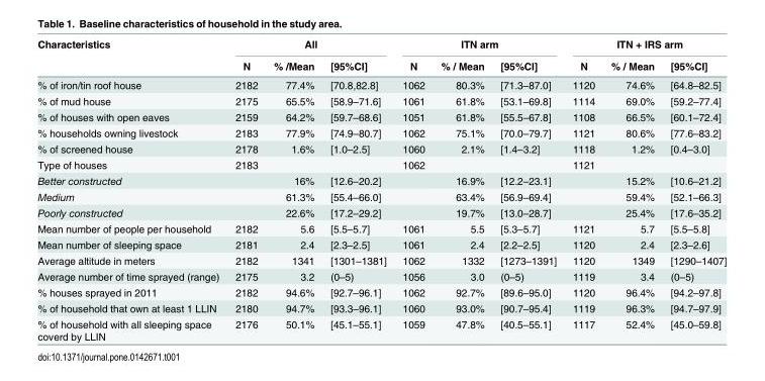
<table><thead><tr><td rowspan="2">Characteristics</td><td colspan="3">All</td><td colspan="3">ITN arm</td><td colspan="3">ITN + IRS arm</td></tr><tr><td>N</td><td>% /Mean</td><td>[95%CI]</td><td>N</td><td>% / Mean</td><td>[95%CI]</td><td>N</td><td>% / Mean</td><td>[95%CI]</td></tr></thead><tbody><tr><td>% of iron/tin roof house</td><td>2182</td><td>77.4%</td><td>[70.8,82.8]</td><td>1062</td><td>80.3%</td><td>[71.3–87.0]</td><td>1120</td><td>74.6%</td><td>[64.8–82.5]</td></tr><tr><td>% of mud house</td><td>2175</td><td>65.5%</td><td>[58.9–71.6]</td><td>1061</td><td>61.8%</td><td>[53.1–69.8]</td><td>1114</td><td>69.0%</td><td>[59.2–77.4]</td></tr><tr><td>% of houses with open eaves</td><td>2159</td><td>64.2%</td><td>[59.7–68.6]</td><td>1051</td><td>61.8%</td><td>[55.5–67.8]</td><td>1108</td><td>66.5%</td><td>[60.1–72.4]</td></tr><tr><td>% households owning livestock</td><td>2183</td><td>77.9%</td><td>[74.9–80.7]</td><td>1062</td><td>75.1%</td><td>[70.0–79.7]</td><td>1121</td><td>80.6%</td><td>[77.6–83.2]</td></tr><tr><td>% of screened house</td><td>2178</td><td>1.6%</td><td>[1.0–2.5]</td><td>1060</td><td>2.1%</td><td>[1.4–3.2]</td><td>1118</td><td>1.2%</td><td>[0.4–3.0]</td></tr><tr><td>Type of houses</td><td>2183</td><td></td><td></td><td>1062</td><td></td><td></td><td>1121</td><td></td><td></td></tr><tr><td>Better constructed</td><td></td><td>16%</td><td>[12.6–20.2]</td><td></td><td>16.9%</td><td>[12.2–23.1]</td><td></td><td>15.2%</td><td>[10.6–21.2]</td></tr><tr><td>Medium</td><td></td><td>61.3%</td><td>[55.4–66.0]</td><td></td><td>63.4%</td><td>[56.9–69.4]</td><td></td><td>59.4%</td><td>[52.1–66.3]</td></tr><tr><td>Poorly constructed</td><td></td><td>22.6%</td><td>[17.2–29.2]</td><td></td><td>19.7%</td><td>[13.0–28.7]</td><td></td><td>25.4%</td><td>[17.6–35.2]</td></tr><tr><td>Mean number of people per household</td><td>2182</td><td>5.6</td><td>[5.5–5.7]</td><td>1061</td><td>5.5</td><td>[5.3–5.7]</td><td>1121</td><td>5.7</td><td>[5.5–5.8]</td></tr><tr><td>Mean number of sleeping space</td><td>2181</td><td>2.4</td><td>[2.3–2.5]</td><td>1061</td><td>2.4</td><td>[2.2–2.5]</td><td>1120</td><td>2.4</td><td>[2.3–2.6]</td></tr><tr><td>Average altitude in meters</td><td>2182</td><td>1341</td><td>[1301–1381]</td><td>1062</td><td>1332</td><td>[1273–1391]</td><td>1120</td><td>1349</td><td>[1290–1407]</td></tr><tr><td>Average number of time sprayed (range)</td><td>2175</td><td>3.2</td><td>(0–5)</td><td>1056</td><td>3.0</td><td>(0–5)</td><td>1119</td><td>3.4</td><td>(0–5)</td></tr><tr><td>% houses sprayed in 2011</td><td>2182</td><td>94.6%</td><td>[92.7–96.1]</td><td>1062</td><td>92.7%</td><td>[89.6–95.0]</td><td>1120</td><td>96.4%</td><td>[94.2–97.8]</td></tr><tr><td>% of household that own at least 1 LLIN</td><td>2180</td><td>94.7%</td><td>[93.3–96.1]</td><td>1060</td><td>93.0%</td><td>[90.7–95.4]</td><td>1119</td><td>96.3%</td><td>[94.7–97.9]</td></tr><tr><td>% of household with all sleeping space coverd by LLIN</td><td>2176</td><td>50.1%</td><td>[45.1–55.1]</td><td>1059</td><td>47.8%</td><td>[40.5–55.1]</td><td>1117</td><td>52.4%</td><td>[45.0–59.8]</td></tr></tbody></table>